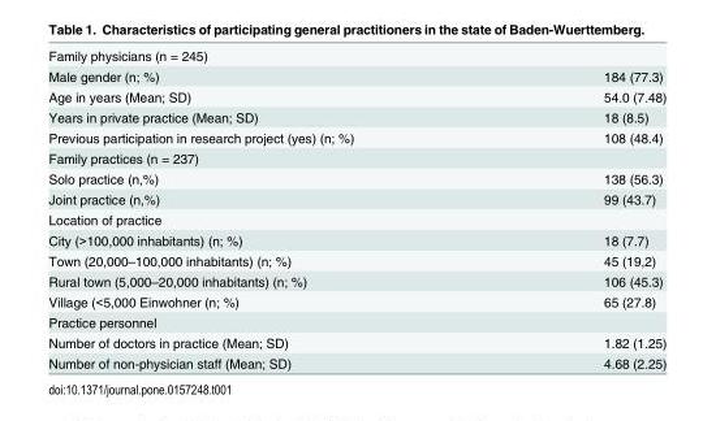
<table><tbody><tr><td colspan="2">Family physicians (n = 245)</td></tr><tr><td>Male gender (n; %)</td><td>184 (77.3)</td></tr><tr><td>Age in years (Mean; SD)</td><td>54.0 (7.48)</td></tr><tr><td>Years in private practice (Mean; SD)</td><td>18 (8.5)</td></tr><tr><td>Previous participation in research project (yes) (n; %)</td><td>108 (48.4)</td></tr><tr><td colspan="2">Family practices (n = 237)</td></tr><tr><td>Solo practice (n,%)</td><td>138 (56.3)</td></tr><tr><td>Joint practice (n,%)</td><td>99 (43.7)</td></tr><tr><td colspan="2">Location of practice</td></tr><tr><td>City (&gt;100,000 inhabitants) (n; %)</td><td>18 (7.7)</td></tr><tr><td>Town (20,000–100,000 inhabitants) (n; %)</td><td>45 (19,2)</td></tr><tr><td>Rural town (5,000–20,000 inhabitants) (n; %)</td><td>106 (45.3)</td></tr><tr><td>Village (&lt;5,000 Einwohner (n; %)</td><td>65 (27.8)</td></tr><tr><td colspan="2">Practice personnel</td></tr><tr><td>Number of doctors in practice (Mean; SD)</td><td>1.82 (1.25)</td></tr><tr><td>Number of non-physician staff (Mean; SD)</td><td>4.68 (2.25)</td></tr></tbody></table>